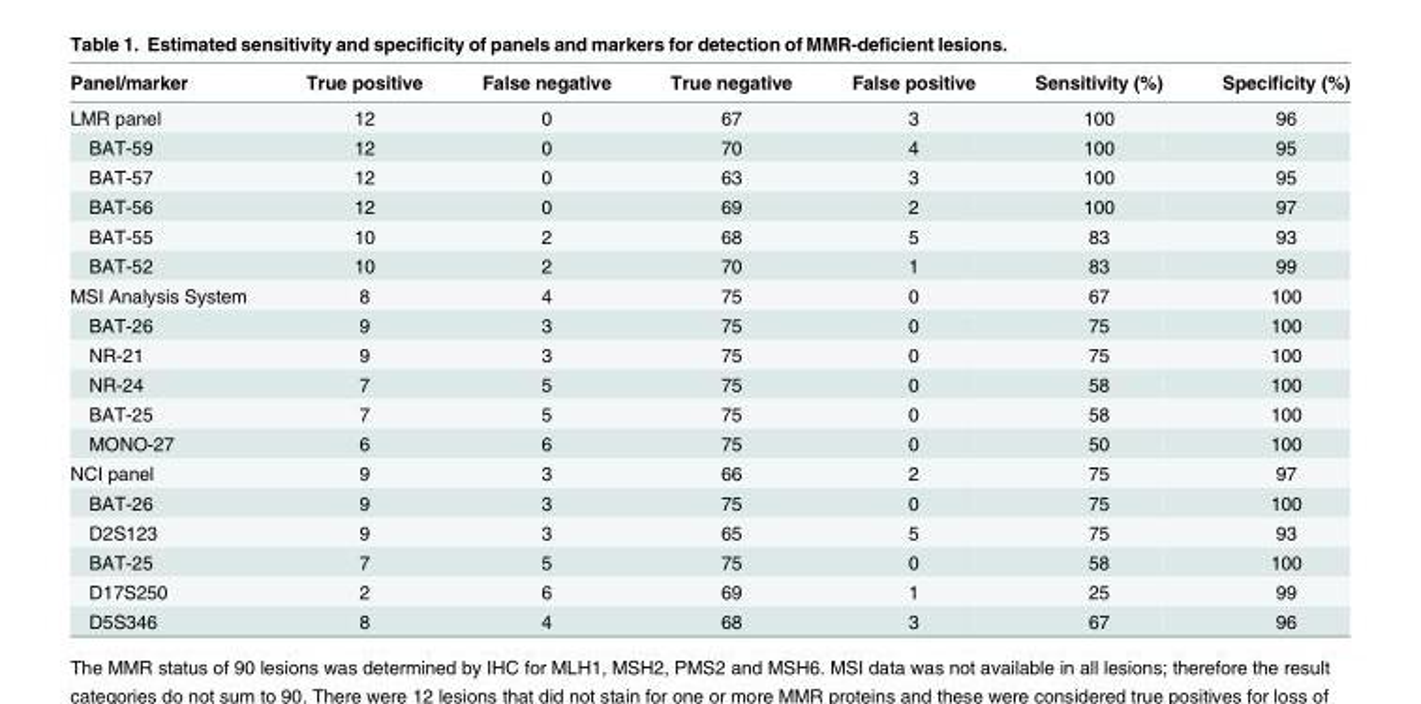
<table><thead><tr><td>Panel/marker</td><td>True positive</td><td>False negative</td><td>True negative</td><td>False positive</td><td>Sensitivity (%)</td><td>Specificity (%)</td></tr></thead><tbody><tr><td>LMR panel</td><td>12</td><td>0</td><td>67</td><td>3</td><td>100</td><td>96</td></tr><tr><td>BAT-59</td><td>12</td><td>0</td><td>70</td><td>4</td><td>100</td><td>95</td></tr><tr><td>BAT-57</td><td>12</td><td>0</td><td>63</td><td>3</td><td>100</td><td>95</td></tr><tr><td>BAT-56</td><td>12</td><td>0</td><td>69</td><td>2</td><td>100</td><td>97</td></tr><tr><td>BAT-55</td><td>10</td><td>2</td><td>68</td><td>5</td><td>83</td><td>93</td></tr><tr><td>BAT-52</td><td>10</td><td>2</td><td>70</td><td>1</td><td>83</td><td>99</td></tr><tr><td>MSI Analysis System</td><td>8</td><td>4</td><td>75</td><td>0</td><td>67</td><td>100</td></tr><tr><td>BAT-26</td><td>9</td><td>3</td><td>75</td><td>0</td><td>75</td><td>100</td></tr><tr><td>NR-21</td><td>9</td><td>3</td><td>75</td><td>0</td><td>75</td><td>100</td></tr><tr><td>NR-24</td><td>7</td><td>5</td><td>75</td><td>0</td><td>58</td><td>100</td></tr><tr><td>BAT-25</td><td>7</td><td>5</td><td>75</td><td>0</td><td>58</td><td>100</td></tr><tr><td>MONO-27</td><td>6</td><td>6</td><td>75</td><td>0</td><td>50</td><td>100</td></tr><tr><td>NCI panel</td><td>9</td><td>3</td><td>66</td><td>2</td><td>75</td><td>97</td></tr><tr><td>BAT-26</td><td>9</td><td>3</td><td>75</td><td>0</td><td>75</td><td>100</td></tr><tr><td>D2S123</td><td>9</td><td>3</td><td>65</td><td>5</td><td>75</td><td>93</td></tr><tr><td>BAT-25</td><td>7</td><td>5</td><td>75</td><td>0</td><td>58</td><td>100</td></tr><tr><td>D17S250</td><td>2</td><td>6</td><td>69</td><td>1</td><td>25</td><td>99</td></tr><tr><td>D5S346</td><td>8</td><td>4</td><td>68</td><td>3</td><td>67</td><td>96</td></tr></tbody></table>